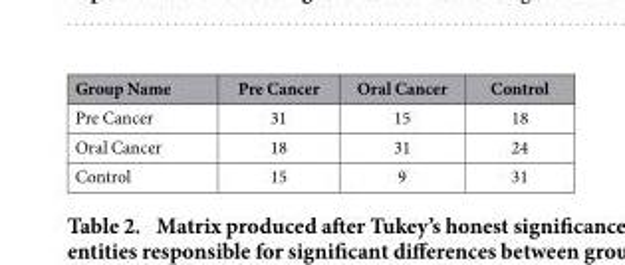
<table><thead><tr><td>Group Name</td><td>Pre Cancer</td><td>Oral Cancer</td><td>Control</td></tr></thead><tbody><tr><td>Pre Cancer</td><td>31</td><td>15</td><td>18</td></tr><tr><td>Oral Cancer</td><td>18</td><td>31</td><td>24</td></tr><tr><td>Control</td><td>15</td><td>9</td><td>31</td></tr></tbody></table>